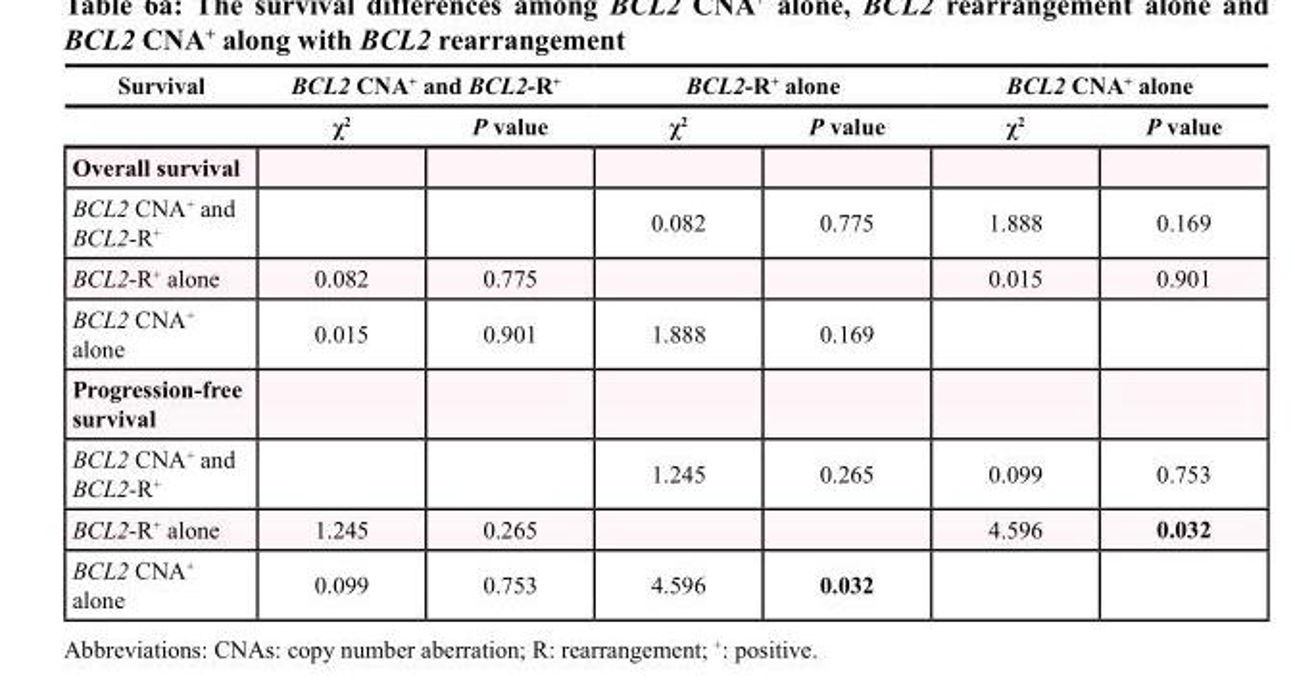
<table><thead><tr><td rowspan="2">Survival</td><td colspan="2">BCL2 CNA<sup>+</sup> and BCL2-R<sup>+</sup></td><td colspan="2">BCL2-R<sup>+</sup> alone</td><td colspan="2">BCL2 CNA<sup>+</sup> alone</td></tr><tr><td>χ<sup>2</sup></td><td>P value</td><td>χ<sup>2</sup></td><td>P value</td><td>χ<sup>2</sup></td><td>P value</td></tr></thead><tbody><tr><td colspan="7">Overall survival</td></tr><tr><td>BCL2 CNA<sup>+</sup> and BCL2-R<sup>+</sup></td><td></td><td></td><td>0.082</td><td>0.775</td><td>1.888</td><td>0.169</td></tr><tr><td>BCL2-R<sup>+</sup> alone</td><td>0.082</td><td>0.775</td><td></td><td></td><td>0.015</td><td>0.901</td></tr><tr><td>BCL2 CNA<sup>+</sup> alone</td><td>0.015</td><td>0.901</td><td>1.888</td><td>0.169</td><td></td><td></td></tr><tr><td colspan="7">Progression-free survival</td></tr><tr><td>BCL2 CNA<sup>+</sup> and BCL2-R<sup>+</sup></td><td></td><td></td><td>1.245</td><td>0.265</td><td>0.099</td><td>0.753</td></tr><tr><td>BCL2-R<sup>+</sup> alone</td><td>1.245</td><td>0.265</td><td></td><td></td><td>4.596</td><td>0.032</td></tr><tr><td>BCL2 CNA<sup>+</sup> alone</td><td>0.099</td><td>0.753</td><td>4.596</td><td>0.032</td><td></td><td></td></tr></tbody></table>